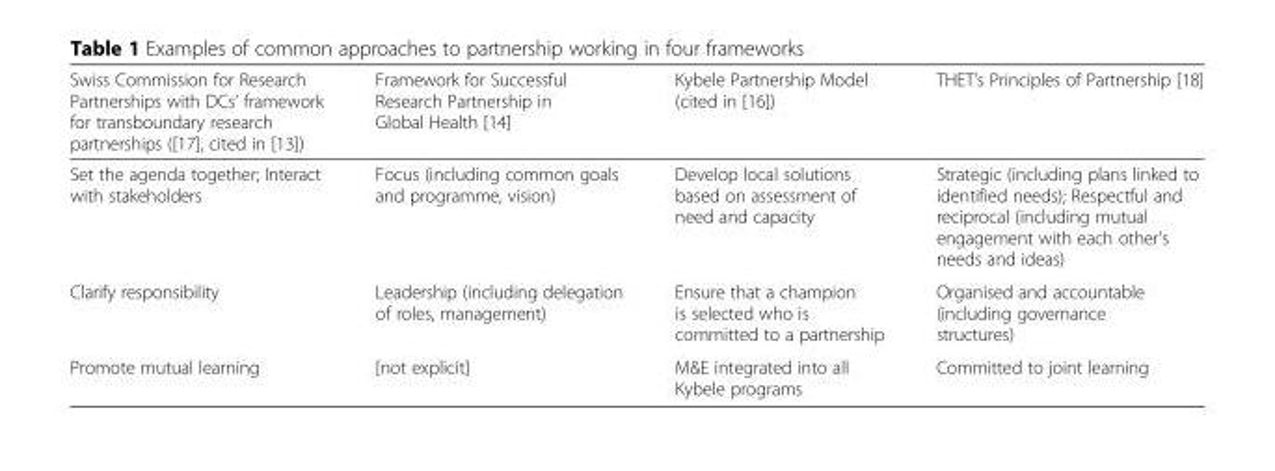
<table><thead><tr><td>Swiss Commission for Research Partnerships with DCs’ framework for transboundary research partnerships ([17], cited in [13])</td><td>Framework for Successful Research Partnership in Global Health [14]</td><td>Kybele Partnership Model (cited in [16])</td><td>THET’s Principles of Partnership [18]</td></tr></thead><tbody><tr><td>Set the agenda together; Interact with stakeholders</td><td>Focus (including common goals and programme, vision)</td><td>Develop local solutions based on assessment of need and capacity</td><td>Strategic (including plans linked to identified needs); Respectful and reciprocal (including mutual engagement with each other’s needs and ideas)</td></tr><tr><td>Clarify responsibility</td><td>Leadership (including delegation of roles, management)</td><td>Ensure that a champion is selected who is committed to a partnership</td><td>Organised and accountable (including governance structures)</td></tr><tr><td>Promote mutual learning</td><td>[not explicit]</td><td>M&amp;E integrated into all Kybele programs</td><td>Committed to joint learning</td></tr></tbody></table>